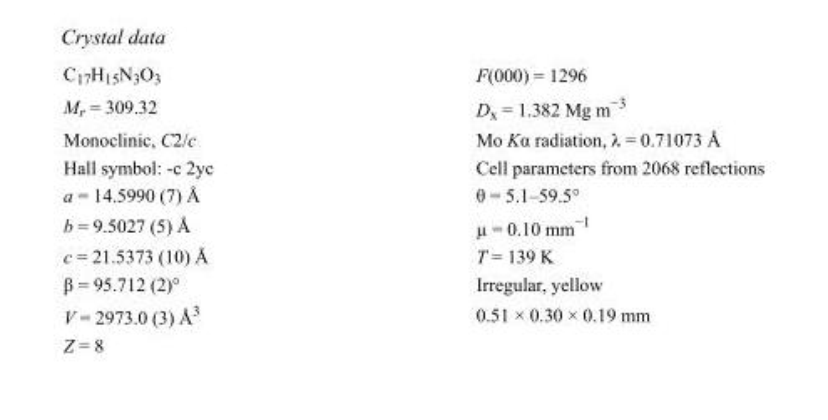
<table><tbody><tr><td>C<sub>17</sub>H<sub>15</sub>N<sub>3</sub>O<sub>3</sub></td><td>F(000) = 1296</td></tr><tr><td>M<sub>r</sub> = 309.32</td><td>D<sub>x</sub> = 1.382 Mg m<sup>−3</sup></td></tr><tr><td>Monoclinic, C2/c</td><td>Mo Kα radiation, λ = 0.71073 Å</td></tr><tr><td>Hall symbol: -c 2yc</td><td>Cell parameters from 2068 reflections</td></tr><tr><td>a = 14.5990 (7) Å</td><td>θ = 5.1–59.5°</td></tr><tr><td>b = 9.5027 (5) Å</td><td>µ = 0.10 mm<sup>−1</sup></td></tr><tr><td>c = 21.5373 (10) Å</td><td>T = 139 K</td></tr><tr><td>β = 95.712 (2)°</td><td>Irregular, yellow</td></tr><tr><td>V = 2973.0 (3) Å<sup>3</sup></td><td>0.51 × 0.30 × 0.19 mm</td></tr><tr><td>Z = 8</td><td></td></tr></tbody></table>